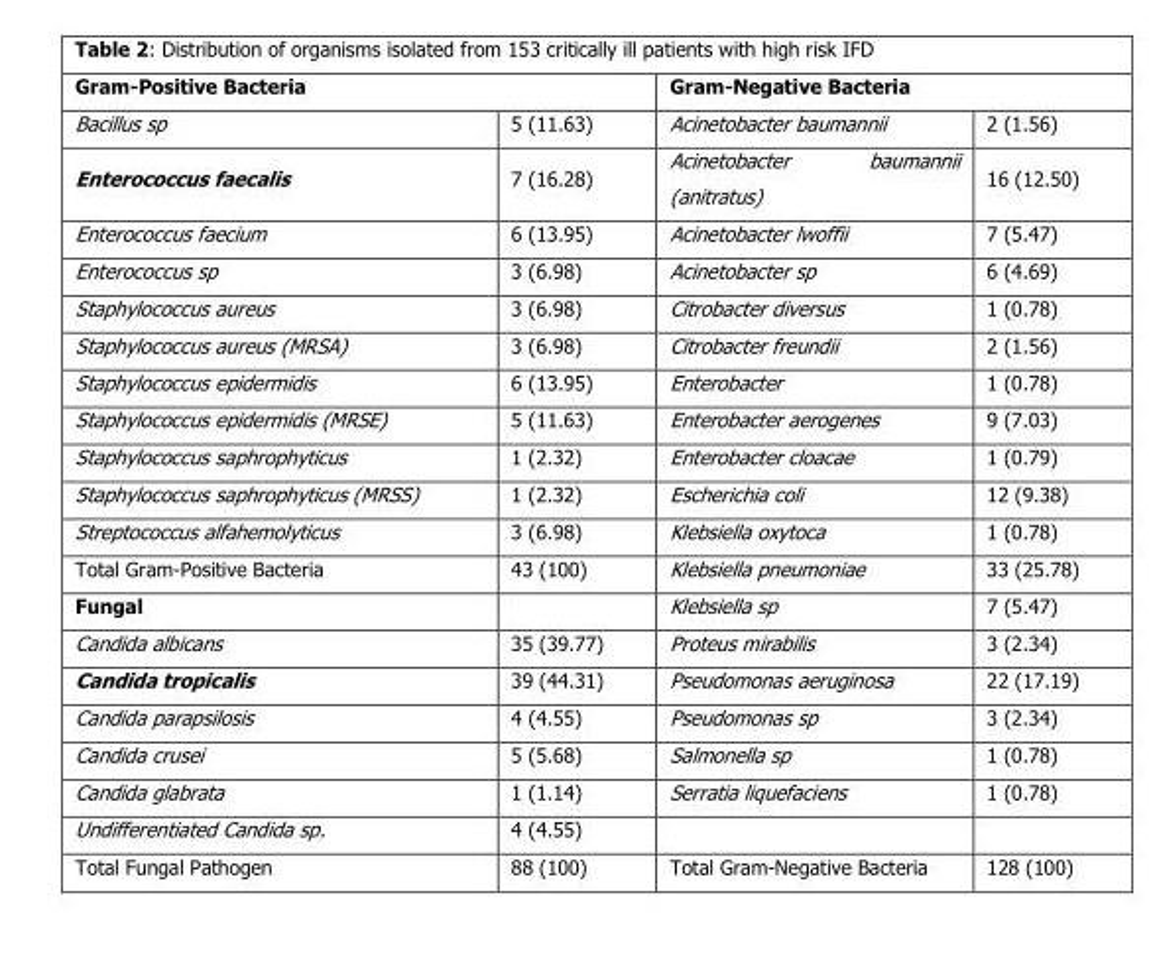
<table><thead><tr><td colspan="2">Gram-Positive Bacteria</td><td colspan="2">Gram-Negative Bacteria</td></tr><tr><td>Bacillus sp</td><td>5 (11.63)</td><td>Acinetobacter baumannii</td><td>2 (1.56)</td></tr></thead><tbody><tr><td>Enterococcus faecalis</td><td>7 (16.28)</td><td>Acinetobacter baumannii (anitratus)</td><td>16 (12.50)</td></tr><tr><td>Enterococcus faecium</td><td>6 (13.95)</td><td>Acinetobacter lwoffii</td><td>7 (5.47)</td></tr><tr><td>Enterococcus sp</td><td>3 (6.98)</td><td>Acinetobacter sp</td><td>6 (4.69)</td></tr><tr><td>Staphylococcus aureus</td><td>3 (6.98)</td><td>Citrobacter diversus</td><td>1 (0.78)</td></tr><tr><td>Staphylococcus aureus (MRSA)</td><td>3 (6.98)</td><td>Citrobacter freundii</td><td>2 (1.56)</td></tr><tr><td>Staphylococcus epidermidis</td><td>6 (13.95)</td><td>Enterobacter</td><td>1 (0.78)</td></tr><tr><td>Staphylococcus epidermidis (MRSE)</td><td>5 (11.63)</td><td>Enterobacter aerogenes</td><td>9 (7.03)</td></tr><tr><td>Staphylococcus saphrophyticus</td><td>1 (2.32)</td><td>Enterobacter cloacae</td><td>1 (0.79)</td></tr><tr><td>Staphylococcus saphrophyticus (MRSS)</td><td>1 (2.32)</td><td>Escherichia coli</td><td>12 (9.38)</td></tr><tr><td>Streptococcus alfahemolyticus</td><td>3 (6.98)</td><td>Klebsiella oxytoca</td><td>1 (0.78)</td></tr><tr><td>Total Gram-Positive Bacteria</td><td>43 (100)</td><td>Klebsiella pneumoniae</td><td>33 (25.78)</td></tr><tr><td>Fungal</td><td></td><td>Klebsiella sp</td><td>7 (5.47)</td></tr><tr><td>Candida albicans</td><td>35 (39.77)</td><td>Proteus mirabilis</td><td>3 (2.34)</td></tr><tr><td>Candida tropicalis</td><td>39 (44.31)</td><td>Pseudomonas aeruginosa</td><td>22 (17.19)</td></tr><tr><td>Candida parapsilosis</td><td>4 (4.55)</td><td>Pseudomonas sp</td><td>3 (2.34)</td></tr><tr><td>Candida crusei</td><td>5 (5.68)</td><td>Salmonella sp</td><td>1 (0.78)</td></tr><tr><td>Candida glabrata</td><td>1 (1.14)</td><td>Serratia liquefaciens</td><td>1 (0.78)</td></tr><tr><td>Undifferentiated Candida sp.</td><td>4 (4.55)</td><td></td><td></td></tr><tr><td>Total Fungal Pathogen</td><td>88 (100)</td><td>Total Gram-Negative Bacteria</td><td>128 (100)</td></tr></tbody></table>